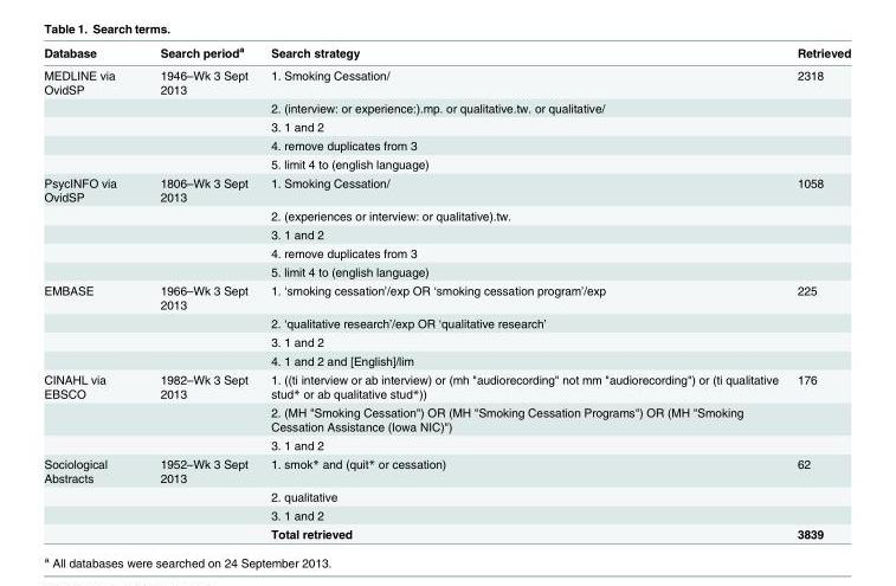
<table><thead><tr><td>Database</td><td>Search period<sup>a</sup></td><td>Search strategy</td><td>Retrieved</td></tr></thead><tbody><tr><td rowspan="5">MEDLINE via OvidSP</td><td>1946–Wk 3 Sept 2013</td><td>1. Smoking Cessation/</td><td>2318</td></tr><tr><td></td><td>2. (interview: or experience:).mp. or qualitative.tw. or qualitative/</td><td></td></tr><tr><td></td><td>3. 1 and 2</td><td></td></tr><tr><td></td><td>4. remove duplicates from 3</td><td></td></tr><tr><td></td><td>5. limit 4 to (english language)</td><td></td></tr><tr><td rowspan="5">PsycINFO via OvidSP</td><td>1806–Wk 3 Sept 2013</td><td>1. Smoking Cessation/</td><td>1058</td></tr><tr><td></td><td>2. (experiences or interview: or qualitative).tw.</td><td></td></tr><tr><td></td><td>3. 1 and 2</td><td></td></tr><tr><td></td><td>4. remove duplicates from 3</td><td></td></tr><tr><td></td><td>5. limit 4 to (english language)</td><td></td></tr><tr><td rowspan="4">EMBASE</td><td>1966–Wk 3 Sept 2013</td><td>1. ‘smoking cessation’/exp OR ‘smoking cessation program’/exp</td><td>225</td></tr><tr><td></td><td>2. ‘qualitative research’/exp OR ‘qualitative research’</td><td></td></tr><tr><td></td><td>3. 1 and 2</td><td></td></tr><tr><td></td><td>4. 1 and 2 and [English]/lim</td><td></td></tr><tr><td rowspan="3">CINAHL via EBSCO</td><td>1982–Wk 3 Sept 2013</td><td>1. ((ti interview or ab interview) or (mh &quot;audiorecording&quot; not mm &quot;audiorecording&quot;) or (ti qualitative stud* or ab qualitative stud*))</td><td>176</td></tr><tr><td></td><td>2. (MH &quot;Smoking Cessation&quot;) OR (MH &quot;Smoking Cessation Programs&quot;) OR (MH &quot;Smoking Cessation Assistance (Iowa NIC)&quot;)</td><td></td></tr><tr><td></td><td>3. 1 and 2</td><td></td></tr><tr><td rowspan="4">Sociological Abstracts</td><td>1952–Wk 3 Sept 2013</td><td>1. smok* and (quit* or cessation)</td><td>62</td></tr><tr><td></td><td>2. qualitative</td><td></td></tr><tr><td></td><td>3. 1 and 2</td><td></td></tr><tr><td></td><td>Total retrieved</td><td>3839</td></tr></tbody></table>